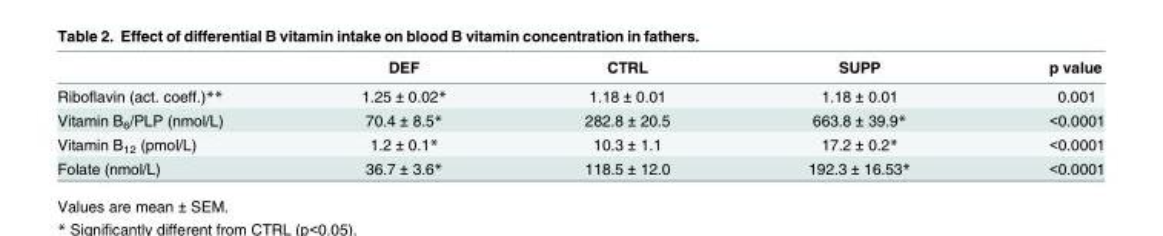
<table><thead><tr><td></td><td>DEF</td><td>CTRL</td><td>SUPP</td><td>p value</td></tr></thead><tbody><tr><td>Riboflavin (act. coeff.)**</td><td>1.25 ± 0.02*</td><td>1.18 ± 0.01</td><td>1.18 ± 0.01</td><td>0.001</td></tr><tr><td>Vitamin B<sub>6</sub>/PLP (nmol/L)</td><td>70.4 ± 8.5*</td><td>282.8 ± 20.5</td><td>663.8 ± 39.9*</td><td>&lt;0.0001</td></tr><tr><td>Vitamin B<sub>12</sub> (pmol/L)</td><td>1.2 ± 0.1*</td><td>10.3 ± 1.1</td><td>17.2 ± 0.2*</td><td>&lt;0.0001</td></tr><tr><td>Folate (nmol/L)</td><td>36.7 ± 3.6*</td><td>118.5 ± 12.0</td><td>192.3 ± 16.53*</td><td>&lt;0.0001</td></tr></tbody></table>